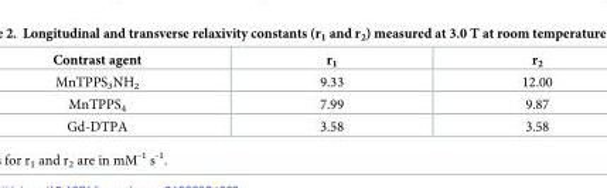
<table><thead><tr><td>Contrast agent</td><td>r<sub>1</sub></td><td>r<sub>2</sub></td></tr></thead><tbody><tr><td>MnTPPS<sub>3</sub>NH<sub>2</sub></td><td>9.33</td><td>12.00</td></tr><tr><td>MnTPPS<sub>4</sub></td><td>7.99</td><td>9.87</td></tr><tr><td>Gd-DTPA</td><td>3.58</td><td>3.58</td></tr></tbody></table>